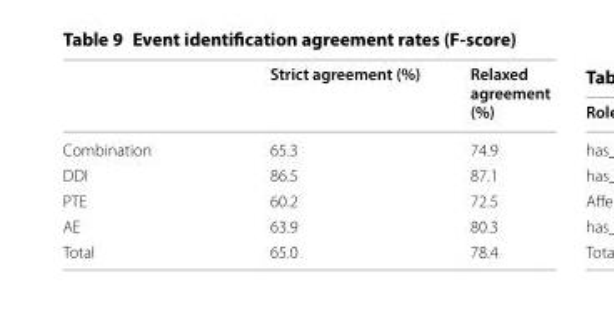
<table><thead><tr><td></td><td>Strict agreement (%)</td><td>Relaxed agreement (%)</td></tr></thead><tbody><tr><td>Combination</td><td>65.3</td><td>74.9</td></tr><tr><td>DDI</td><td>86.5</td><td>87.1</td></tr><tr><td>PTE</td><td>60.2</td><td>72.5</td></tr><tr><td>AE</td><td>63.9</td><td>80.3</td></tr><tr><td>Total</td><td>65.0</td><td>78.4</td></tr></tbody></table>